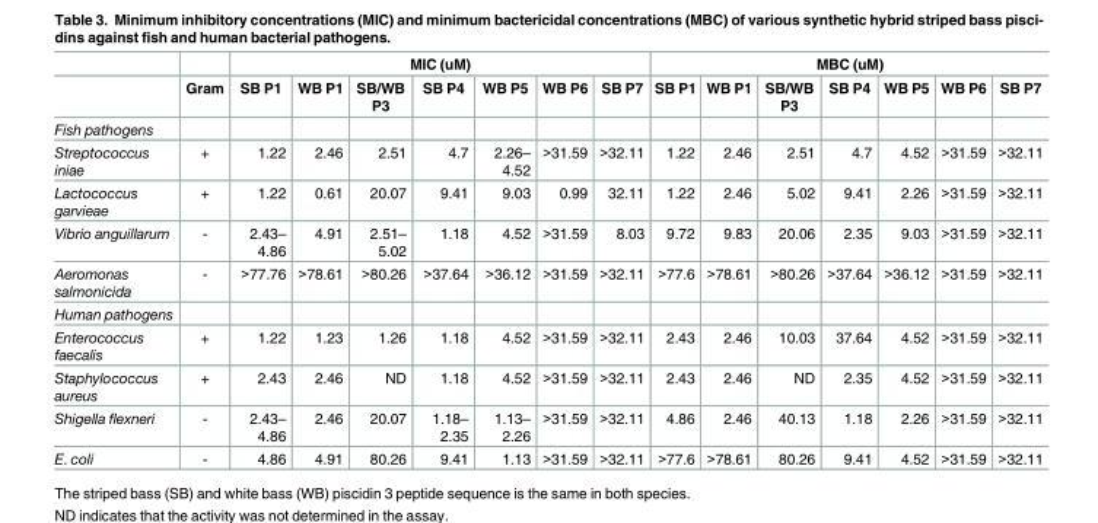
<table><thead><tr><td rowspan="2"></td><td rowspan="2">Gram</td><td colspan="7">MIC (uM)</td><td colspan="7">MBC (uM)</td></tr><tr><td>SB P1</td><td>WB P1</td><td>SB/WB P3</td><td>SB P4</td><td>WB P5</td><td>WB P6</td><td>SB P7</td><td>SB P1</td><td>WB P1</td><td>SB/WB P3</td><td>SB P4</td><td>WB P5</td><td>WB P6</td><td>SB P7</td></tr></thead><tbody><tr><td colspan="16">Fish pathogens</td></tr><tr><td>Streptococcus iniae</td><td>+</td><td>1.22</td><td>2.46</td><td>2.51</td><td>4.7</td><td>2.26– 4.52</td><td>&gt;31.59</td><td>&gt;32.11</td><td>1.22</td><td>2.46</td><td>2.51</td><td>4.7</td><td>4.52</td><td>&gt;31.59</td><td>&gt;32.11</td></tr><tr><td>Lactococcus garvieae</td><td>+</td><td>1.22</td><td>0.61</td><td>20.07</td><td>9.41</td><td>9.03</td><td>0.99</td><td>32.11</td><td>1.22</td><td>2.46</td><td>5.02</td><td>9.41</td><td>2.26</td><td>&gt;31.59</td><td>&gt;32.11</td></tr><tr><td>Vibrio anguillarum</td><td>-</td><td>2.43– 4.86</td><td>4.91</td><td>2.51– 5.02</td><td>1.18</td><td>4.52</td><td>&gt;31.59</td><td>8.03</td><td>9.72</td><td>9.83</td><td>20.06</td><td>2.35</td><td>9.03</td><td>&gt;31.59</td><td>&gt;32.11</td></tr><tr><td>Aeromonas salmonicida</td><td>-</td><td>&gt;77.76</td><td>&gt;78.61</td><td>&gt;80.26</td><td>&gt;37.64</td><td>&gt;36.12</td><td>&gt;31.59</td><td>&gt;32.11</td><td>&gt;77.6</td><td>&gt;78.61</td><td>&gt;80.26</td><td>&gt;37.64</td><td>&gt;36.12</td><td>&gt;31.59</td><td>&gt;32.11</td></tr><tr><td colspan="16">Human pathogens</td></tr><tr><td>Enterococcus faecalis</td><td>+</td><td>1.22</td><td>1.23</td><td>1.26</td><td>1.18</td><td>4.52</td><td>&gt;31.59</td><td>&gt;32.11</td><td>2.43</td><td>2.46</td><td>10.03</td><td>37.64</td><td>4.52</td><td>&gt;31.59</td><td>&gt;32.11</td></tr><tr><td>Staphylococcus aureus</td><td>+</td><td>2.43</td><td>2.46</td><td>ND</td><td>1.18</td><td>4.52</td><td>&gt;31.59</td><td>&gt;32.11</td><td>2.43</td><td>2.46</td><td>ND</td><td>2.35</td><td>4.52</td><td>&gt;31.59</td><td>&gt;32.11</td></tr><tr><td>Shigella flexneri</td><td>-</td><td>2.43– 4.86</td><td>2.46</td><td>20.07</td><td>1.18– 2.35</td><td>1.13– 2.26</td><td>&gt;31.59</td><td>&gt;32.11</td><td>4.86</td><td>2.46</td><td>40.13</td><td>1.18</td><td>2.26</td><td>&gt;31.59</td><td>&gt;32.11</td></tr><tr><td>E. coli</td><td>-</td><td>4.86</td><td>4.91</td><td>80.26</td><td>9.41</td><td>1.13</td><td>&gt;31.59</td><td>&gt;32.11</td><td>&gt;77.6</td><td>&gt;78.61</td><td>80.26</td><td>9.41</td><td>4.52</td><td>&gt;31.59</td><td>&gt;32.11</td></tr></tbody></table>